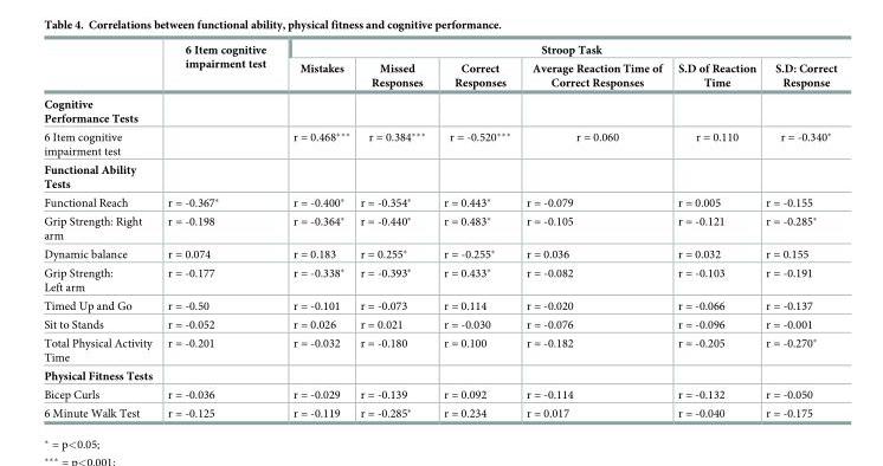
<table><thead><tr><td rowspan="2"></td><td rowspan="2">6 Item cognitive impairment test</td><td colspan="6">Stroop Task</td></tr><tr><td>Mistakes</td><td>Missed Responses</td><td>Correct Responses</td><td>Average Reaction Time of Correct Responses</td><td>S.D of Reaction Time</td><td>S.D: Correct Response</td></tr></thead><tbody><tr><td colspan="8">Cognitive Performance Tests</td></tr><tr><td>6 Item cognitive impairment test</td><td></td><td>r = 0.468***</td><td>r = 0.384***</td><td>r = -0.520***</td><td>r = 0.060</td><td>r = 0.110</td><td>r = -0.340*</td></tr><tr><td colspan="8">Functional Ability Tests</td></tr><tr><td>Functional Reach</td><td>r = -0.367*</td><td>r = -0.400*</td><td>r = -0.354*</td><td>r = 0.443*</td><td>r = -0.079</td><td>r = 0.005</td><td>r = -0.155</td></tr><tr><td>Grip Strength: Right arm</td><td>r = -0.198</td><td>r = -0.364*</td><td>r = -0.440*</td><td>r = 0.483*</td><td>r = -0.105</td><td>r = -0.121</td><td>r = -0.285*</td></tr><tr><td>Dynamic balance</td><td>r = 0.074</td><td>r = 0.183</td><td>r = 0.255*</td><td>r = -0.255*</td><td>r = 0.036</td><td>r = 0.032</td><td>r = 0.155</td></tr><tr><td>Grip Strength: Left arm</td><td>r = -0.177</td><td>r = -0.338*</td><td>r = -0.393*</td><td>r = 0.433*</td><td>r = -0.082</td><td>r = -0.103</td><td>r = -0.191</td></tr><tr><td>Timed Up and Go</td><td>r = -0.50</td><td>r = -0.101</td><td>r = -0.073</td><td>r = 0.114</td><td>r = -0.020</td><td>r = -0.066</td><td>r = -0.137</td></tr><tr><td>Sit to Stands</td><td>r = -0.052</td><td>r = 0.026</td><td>r = 0.021</td><td>r = -0.030</td><td>r = -0.076</td><td>r = -0.096</td><td>r = -0.001</td></tr><tr><td>Total Physical Activity Time</td><td>r = -0.201</td><td>r = -0.032</td><td>r = -0.180</td><td>r = 0.100</td><td>r = -0.182</td><td>r = -0.205</td><td>r = -0.270*</td></tr><tr><td colspan="8">Physical Fitness Tests</td></tr><tr><td>Bicep Curls</td><td>r = -0.036</td><td>r = -0.029</td><td>r = -0.139</td><td>r = 0.092</td><td>r = -0.114</td><td>r = -0.132</td><td>r = -0.050</td></tr><tr><td>6 Minute Walk Test</td><td>r = -0.125</td><td>r = -0.119</td><td>r = -0.285*</td><td>r = 0.234</td><td>r = 0.017</td><td>r = -0.040</td><td>r = -0.175</td></tr></tbody></table>